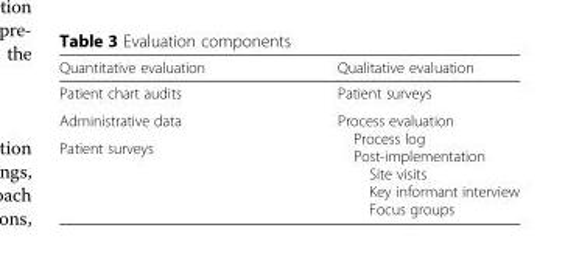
<table><thead><tr><td>Quantitative evaluation</td><td>Qualitative evaluation</td></tr></thead><tbody><tr><td>Patient chart audits</td><td>Patient surveys</td></tr><tr><td>Administrative data</td><td rowspan="2">Process evaluation Process log Post-implementation Site visits Key informant interview Focus groups</td></tr><tr><td>Patient surveys</td></tr></tbody></table>